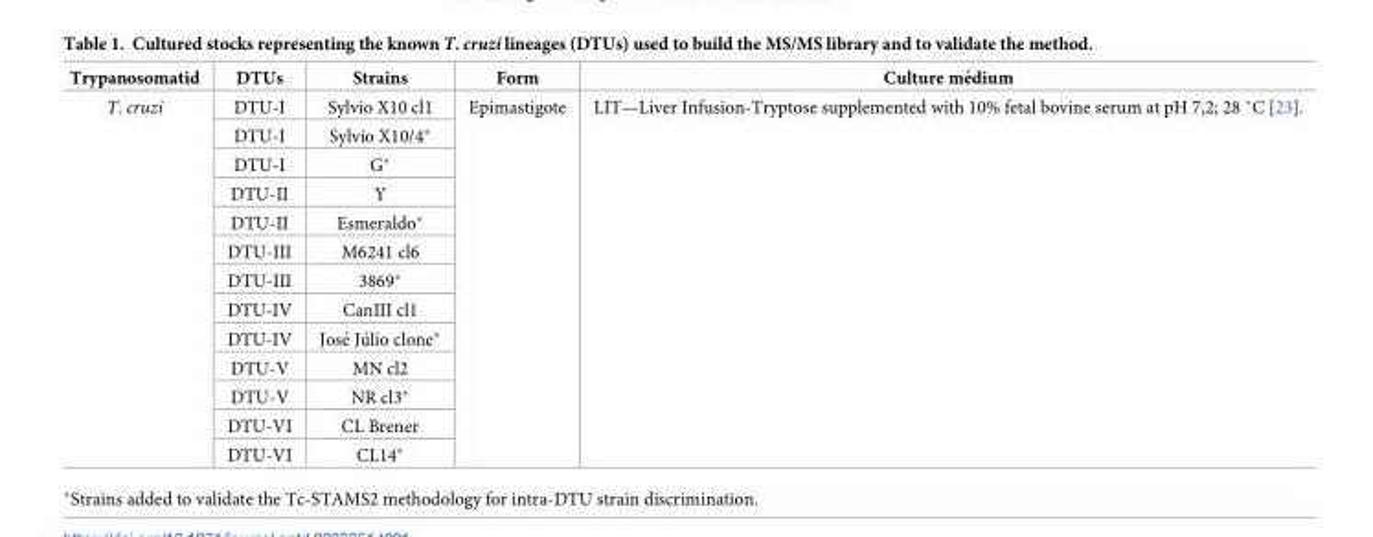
<table><thead><tr><td>Trypanosomatid</td><td>DTUs</td><td>Strains</td><td>Form</td><td>Culture me´dium</td></tr></thead><tbody><tr><td rowspan="13">T. cruzi</td><td>DTU-I</td><td>Sylvio X10 cl1</td><td rowspan="13">Epimastigote</td><td rowspan="13">LIT—Liver Infusion-Tryptose supplemented with 10% fetal bovine serum at pH 7,2; 28 ˚C [23].</td></tr><tr><td>DTU-I</td><td>Sylvio X10/4*</td></tr><tr><td>DTU-I</td><td>G*</td></tr><tr><td>DTU-II</td><td>Y</td></tr><tr><td>DTU-II</td><td>Esmeraldo*</td></tr><tr><td>DTU-III</td><td>M6241 cl6</td></tr><tr><td>DTU-III</td><td>3869*</td></tr><tr><td>DTU-IV</td><td>CanIII cl1</td></tr><tr><td>DTU-IV</td><td>Jose´ Ju´lio clone�</td></tr><tr><td>DTU-V</td><td>MN cl2</td></tr><tr><td>DTU-V</td><td>NR cl3*</td></tr><tr><td>DTU-VI</td><td>CL Brener</td></tr><tr><td>DTU-VI</td><td>CL14*</td></tr></tbody></table>